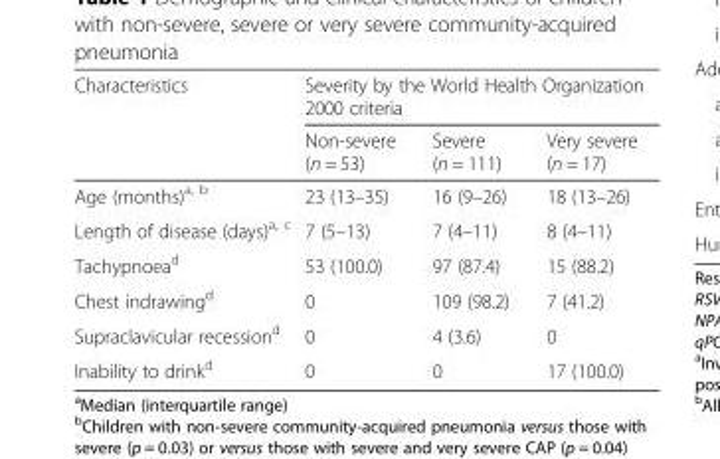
<table><thead><tr><td rowspan="2">Characteristics</td><td colspan="3">Severity by the World Health Organization 2000 criteria</td></tr><tr><td>Non-severe (n = 53)</td><td>Severe (n = 111)</td><td>Very severe (n = 17)</td></tr></thead><tbody><tr><td>Age (months)<sup>a, b</sup></td><td>23 (13–35)</td><td>16 (9–26)</td><td>18 (13–26)</td></tr><tr><td>Length of disease (days)<sup>a, c</sup></td><td>7 (5–13)</td><td>7 (4–11)</td><td>8 (4–11)</td></tr><tr><td>Tachypnoea<sup>d</sup></td><td>53 (100.0)</td><td>97 (87.4)</td><td>15 (88.2)</td></tr><tr><td>Chest indrawing<sup>d</sup></td><td>0</td><td>109 (98.2)</td><td>7 (41.2)</td></tr><tr><td>Supraclavicular recession<sup>d</sup></td><td>0</td><td>4 (3.6)</td><td>0</td></tr><tr><td>Inability to drink<sup>d</sup></td><td>0</td><td>0</td><td>17 (100.0)</td></tr></tbody></table>